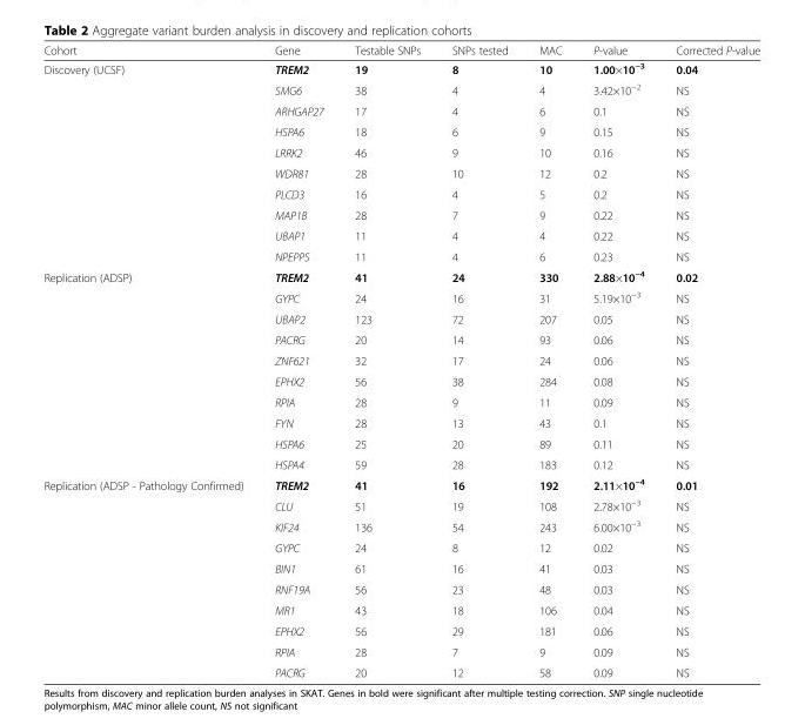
<table><thead><tr><td>Cohort</td><td>Gene</td><td>Testable SNPs</td><td>SNPs tested</td><td>MAC</td><td>P-value</td><td>Corrected P-value</td></tr></thead><tbody><tr><td rowspan="10">Discovery (UCSF)</td><td>TREM2</td><td>19</td><td>8</td><td>10</td><td>1.00×10<sup>−3</sup></td><td>0.04</td></tr><tr><td>SMG6</td><td>38</td><td>4</td><td>4</td><td>3.42×10<sup>−2</sup></td><td>NS</td></tr><tr><td>ARHGAP27</td><td>17</td><td>4</td><td>6</td><td>0.1</td><td>NS</td></tr><tr><td>HSPA6</td><td>18</td><td>6</td><td>9</td><td>0.15</td><td>NS</td></tr><tr><td>LRRK2</td><td>46</td><td>9</td><td>10</td><td>0.16</td><td>NS</td></tr><tr><td>WDR81</td><td>28</td><td>10</td><td>12</td><td>0.2</td><td>NS</td></tr><tr><td>PLCD3</td><td>16</td><td>4</td><td>5</td><td>0.2</td><td>NS</td></tr><tr><td>MAP1B</td><td>28</td><td>7</td><td>9</td><td>0.22</td><td>NS</td></tr><tr><td>UBAP1</td><td>11</td><td>4</td><td>4</td><td>0.22</td><td>NS</td></tr><tr><td>NPEPPS</td><td>11</td><td>4</td><td>6</td><td>0.23</td><td>NS</td></tr><tr><td rowspan="10">Replication (ADSP)</td><td>TREM2</td><td>41</td><td>24</td><td>330</td><td>2.88×10<sup>−4</sup></td><td>0.02</td></tr><tr><td>GYPC</td><td>24</td><td>16</td><td>31</td><td>5.19×10<sup>−3</sup></td><td>NS</td></tr><tr><td>UBAP2</td><td>123</td><td>72</td><td>207</td><td>0.05</td><td>NS</td></tr><tr><td>PACRG</td><td>20</td><td>14</td><td>93</td><td>0.06</td><td>NS</td></tr><tr><td>ZNF621</td><td>32</td><td>17</td><td>24</td><td>0.06</td><td>NS</td></tr><tr><td>EPHX2</td><td>56</td><td>38</td><td>284</td><td>0.08</td><td>NS</td></tr><tr><td>RPIA</td><td>28</td><td>9</td><td>11</td><td>0.09</td><td>NS</td></tr><tr><td>FYN</td><td>28</td><td>13</td><td>43</td><td>0.1</td><td>NS</td></tr><tr><td>HSPA6</td><td>25</td><td>20</td><td>89</td><td>0.11</td><td>NS</td></tr><tr><td>HSPA4</td><td>59</td><td>28</td><td>183</td><td>0.12</td><td>NS</td></tr><tr><td rowspan="10">Replication (ADSP - Pathology Confirmed)</td><td>TREM2</td><td>41</td><td>16</td><td>192</td><td>2.11×10<sup>−4</sup></td><td>0.01</td></tr><tr><td>CLU</td><td>51</td><td>19</td><td>108</td><td>2.78×10<sup>−3</sup></td><td>NS</td></tr><tr><td>KIF24</td><td>136</td><td>54</td><td>243</td><td>6.00×10<sup>−3</sup></td><td>NS</td></tr><tr><td>GYPC</td><td>24</td><td>8</td><td>12</td><td>0.02</td><td>NS</td></tr><tr><td>BIN1</td><td>61</td><td>16</td><td>41</td><td>0.03</td><td>NS</td></tr><tr><td>RNF19A</td><td>56</td><td>23</td><td>48</td><td>0.03</td><td>NS</td></tr><tr><td>MR1</td><td>43</td><td>18</td><td>106</td><td>0.04</td><td>NS</td></tr><tr><td>EPHX2</td><td>56</td><td>29</td><td>181</td><td>0.06</td><td>NS</td></tr><tr><td>RPIA</td><td>28</td><td>7</td><td>9</td><td>0.09</td><td>NS</td></tr><tr><td>PACRG</td><td>20</td><td>12</td><td>58</td><td>0.09</td><td>NS</td></tr></tbody></table>